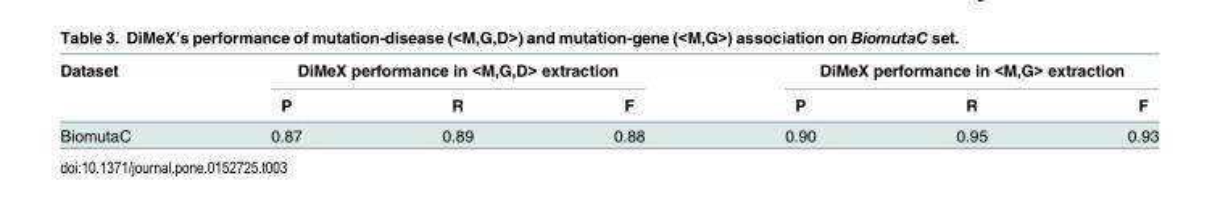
<table><thead><tr><td rowspan="2">Dataset</td><td colspan="3">DiMeX performance in &lt;M,G,D&gt; extraction</td><td colspan="3">DiMeX performance in &lt;M,G&gt; extraction</td></tr><tr><td>P</td><td>R</td><td>F</td><td>P</td><td>R</td><td>F</td></tr></thead><tbody><tr><td>BiomutaC</td><td>0.87</td><td>0.89</td><td>0.88</td><td>0.90</td><td>0.95</td><td>0.93</td></tr></tbody></table>